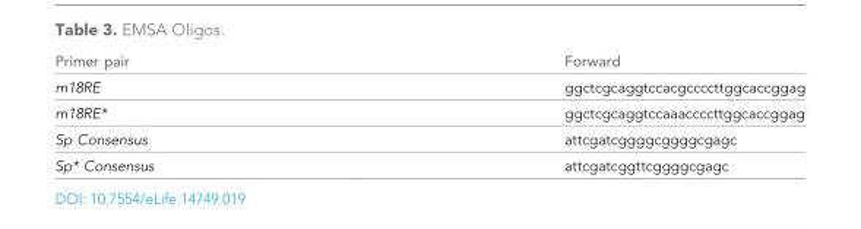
<table><thead><tr><td>Primer pair</td><td>Forward</td></tr></thead><tbody><tr><td>m18RE</td><td>ggctcgcaggtccacgccccttggcaccggag</td></tr><tr><td>m18RE*</td><td>ggctcgcaggtccaaaccccttggcaccggag</td></tr><tr><td>Sp Consensus</td><td>attcgatcggggcggggcgagc</td></tr><tr><td>Sp* Consensus</td><td>attcgatcggttcggggcgagc</td></tr></tbody></table>